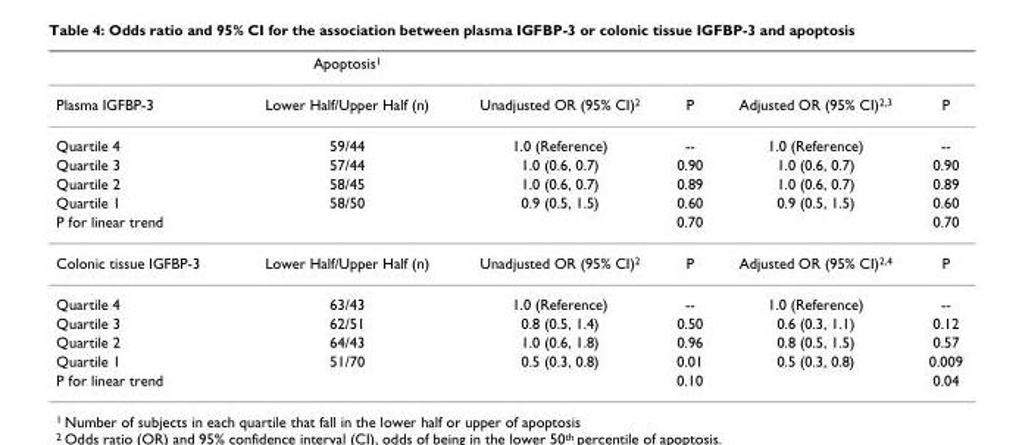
<table><thead><tr><td></td><td>Apoptosis<sup>1</sup></td><td></td><td></td><td></td><td></td></tr></thead><tbody><tr><td>Plasma IGFBP-3</td><td>Lower Half/Upper Half (n)</td><td>Unadjusted OR (95% CI)<sup>2</sup></td><td>P</td><td>Adjusted OR (95% CI)<sup>2,3</sup></td><td>P</td></tr><tr><td>Quartile 4</td><td>59/44</td><td>1.0 (Reference)</td><td>--</td><td>1.0 (Reference)</td><td>--</td></tr><tr><td>Quartile 3</td><td>57/44</td><td>1.0 (0.6, 0.7)</td><td>0.90</td><td>1.0 (0.6, 0.7)</td><td>0.90</td></tr><tr><td>Quartile 2</td><td>58/45</td><td>1.0 (0.6, 0.7)</td><td>0.89</td><td>1.0 (0.6, 0.7)</td><td>0.89</td></tr><tr><td>Quartile 1</td><td>58/50</td><td>0.9 (0.5, 1.5)</td><td>0.60</td><td>0.9 (0.5, 1.5)</td><td>0.60</td></tr><tr><td>P for linear trend</td><td></td><td></td><td>0.70</td><td></td><td>0.70</td></tr><tr><td>Colonic tissue IGFBP-3</td><td>Lower Half/Upper Half (n)</td><td>Unadjusted OR (95% CI)<sup>2</sup></td><td>P</td><td>Adjusted OR (95% CI)<sup>2,4</sup></td><td>P</td></tr><tr><td>Quartile 4</td><td>63/43</td><td>1.0 (Reference)</td><td>--</td><td>1.0 (Reference)</td><td>--</td></tr><tr><td>Quartile 3</td><td>62/51</td><td>0.8 (0.5, 1.4)</td><td>0.50</td><td>0.6 (0.3, 1.1)</td><td>0.12</td></tr><tr><td>Quartile 2</td><td>64/43</td><td>1.0 (0.6, 1.8)</td><td>0.96</td><td>0.8 (0.5, 1.5)</td><td>0.57</td></tr><tr><td>Quartile 1</td><td>51/70</td><td>0.5 (0.3, 0.8)</td><td>0.01</td><td>0.5 (0.3, 0.8)</td><td>0.009</td></tr><tr><td>P for linear trend</td><td></td><td></td><td>0.10</td><td></td><td>0.04</td></tr></tbody></table>